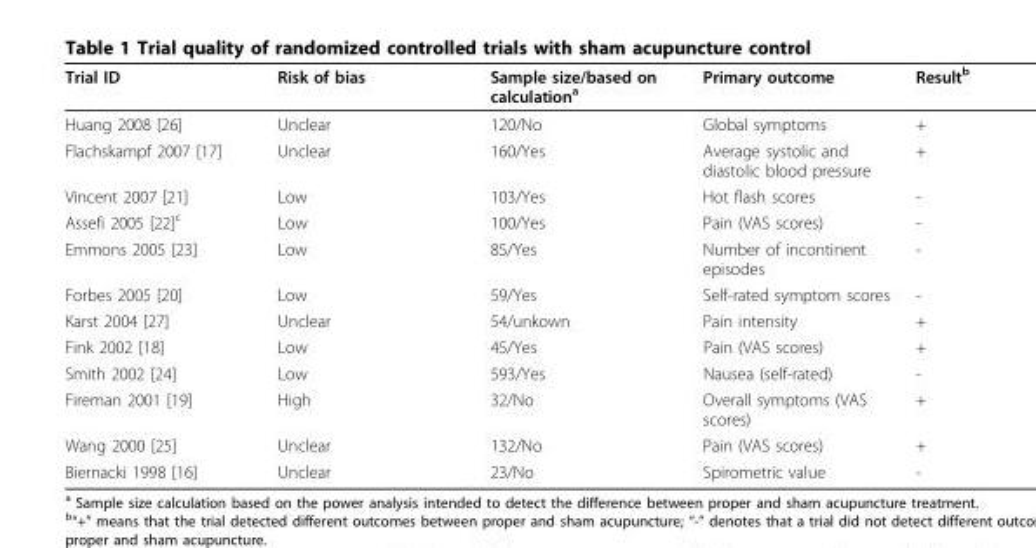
<table><thead><tr><td>Trial ID</td><td>Risk of bias</td><td>Sample size/based on calculation<sup>a</sup></td><td>Primary outcome</td><td>Result<sup>b</sup></td></tr></thead><tbody><tr><td>Huang 2008 [26]</td><td>Unclear</td><td>120/No</td><td>Global symptoms</td><td>+</td></tr><tr><td>Flachskampf 2007 [17]</td><td>Unclear</td><td>160/Yes</td><td>Average systolic and diastolic blood pressure</td><td>+</td></tr><tr><td>Vincent 2007 [21]</td><td>Low</td><td>103/Yes</td><td>Hot flash scores</td><td>-</td></tr><tr><td>Assefi 2005 [22]<sup>c</sup></td><td>Low</td><td>100/Yes</td><td>Pain (VAS scores)</td><td>-</td></tr><tr><td>Emmons 2005 [23]</td><td>Low</td><td>85/Yes</td><td>Number of incontinent episodes</td><td>-</td></tr><tr><td>Forbes 2005 [20]</td><td>Low</td><td>59/Yes</td><td>Self-rated symptom scores</td><td>-</td></tr><tr><td>Karst 2004 [27]</td><td>Unclear</td><td>54/unkown</td><td>Pain intensity</td><td>+</td></tr><tr><td>Fink 2002 [18]</td><td>Low</td><td>45/Yes</td><td>Pain (VAS scores)</td><td>+</td></tr><tr><td>Smith 2002 [24]</td><td>Low</td><td>593/Yes</td><td>Nausea (self-rated)</td><td>-</td></tr><tr><td>Fireman 2001 [19]</td><td>High</td><td>32/No</td><td>Overall symptoms (VAS scores)</td><td>+</td></tr><tr><td>Wang 2000 [25]</td><td>Unclear</td><td>132/No</td><td>Pain (VAS scores)</td><td>+</td></tr><tr><td>Biernacki 1998 [16]</td><td>Unclear</td><td>23/No</td><td>Spirometric value</td><td>-</td></tr></tbody></table>